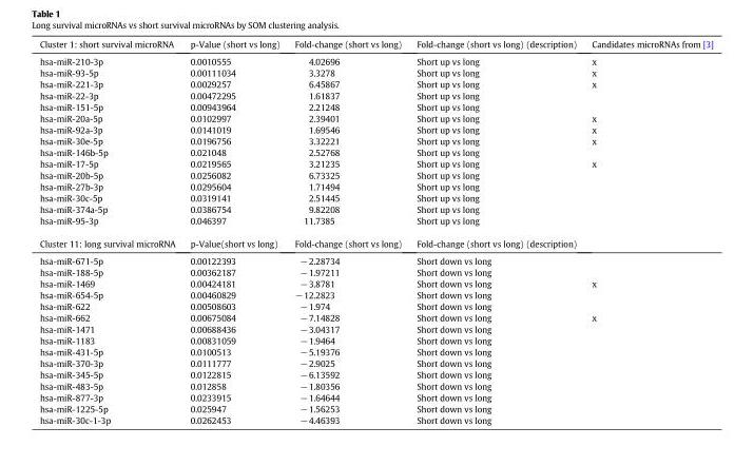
<table><thead><tr><td>Cluster 1: short survival microRNA</td><td>p-Value (short vs long)</td><td>Fold-change (short vs long)</td><td>Fold-change (short vs long) (description)</td><td>Candidates microRNAs from [3]</td></tr></thead><tbody><tr><td>hsa-miR-210-3p</td><td>0.0010555</td><td>4.02696</td><td>Short up vs long</td><td>x</td></tr><tr><td>hsa-miR-93-5p</td><td>0.00111034</td><td>3.3278</td><td>Short up vs long</td><td>x</td></tr><tr><td>hsa-miR-221-3p</td><td>0.0029257</td><td>6.45867</td><td>Short up vs long</td><td>x</td></tr><tr><td>hsa-miR-22-3p</td><td>0.00472295</td><td>1.61837</td><td>Short up vs long</td><td></td></tr><tr><td>hsa-miR-151-5p</td><td>0.00943964</td><td>2.21248</td><td>Short up vs long</td><td></td></tr><tr><td>hsa-miR-20a-5p</td><td>0.0102997</td><td>2.39401</td><td>Short up vs long</td><td>x</td></tr><tr><td>hsa-miR-92a-3p</td><td>0.0141019</td><td>1.69546</td><td>Short up vs long</td><td>x</td></tr><tr><td>hsa-miR-30e-5p</td><td>0.0196756</td><td>3.32221</td><td>Short up vs long</td><td>x</td></tr><tr><td>hsa-miR-146b-5p</td><td>0.021048</td><td>2.52768</td><td>Short up vs long</td><td></td></tr><tr><td>hsa-miR-17-5p</td><td>0.0219565</td><td>3.21235</td><td>Short up vs long</td><td>x</td></tr><tr><td>hsa-miR-20b-5p</td><td>0.0256082</td><td>6.73325</td><td>Short up vs long</td><td></td></tr><tr><td>hsa-miR-27b-3p</td><td>0.0295604</td><td>1.71494</td><td>Short up vs long</td><td></td></tr><tr><td>hsa-miR-30c-5p</td><td>0.0319141</td><td>2.51445</td><td>Short up vs long</td><td></td></tr><tr><td>hsa-miR-374a-5p</td><td>0.0386754</td><td>9.82208</td><td>Short up vs long</td><td></td></tr><tr><td>hsa-miR-95-3p</td><td>0.046397</td><td>11.7385</td><td>Short up vs long</td><td></td></tr><tr><td>Cluster 11: long survival microRNA</td><td>p-Value(short vs long)</td><td>Fold-change (short vs long)</td><td>Fold-change (short vs long) (description)</td><td></td></tr><tr><td>hsa-miR-671-5p</td><td>0.00122393</td><td>−2.28734</td><td>Short down vs long</td><td></td></tr><tr><td>hsa-miR-188-5p</td><td>0.00362187</td><td>−1.97211</td><td>Short down vs long</td><td></td></tr><tr><td>hsa-miR-1469</td><td>0.00424181</td><td>−3.8781</td><td>Short down vs long</td><td>x</td></tr><tr><td>hsa-miR-654-5p</td><td>0.00460829</td><td>−12.2823</td><td>Short down vs long</td><td></td></tr><tr><td>hsa-miR-622</td><td>0.00508603</td><td>−1.974</td><td>Short down vs long</td><td></td></tr><tr><td>hsa-miR-662</td><td>0.00675084</td><td>−7.14828</td><td>Short down vs long</td><td>x</td></tr><tr><td>hsa-miR-1471</td><td>0.00688436</td><td>−3.04317</td><td>Short down vs long</td><td></td></tr><tr><td>hsa-miR-1183</td><td>0.00831059</td><td>−1.9464</td><td>Short down vs long</td><td></td></tr><tr><td>hsa-miR-431-5p</td><td>0.0100513</td><td>−5.19376</td><td>Short down vs long</td><td></td></tr><tr><td>hsa-miR-370-3p</td><td>0.0111777</td><td>−2.9025</td><td>Short down vs long</td><td></td></tr><tr><td>hsa-miR-345-5p</td><td>0.0122815</td><td>−6.13592</td><td>Short down vs long</td><td></td></tr><tr><td>hsa-miR-483-5p</td><td>0.012858</td><td>−1.80356</td><td>Short down vs long</td><td></td></tr><tr><td>hsa-miR-877-3p</td><td>0.0233915</td><td>−1.64644</td><td>Short down vs long</td><td></td></tr><tr><td>hsa-miR-1225-5p</td><td>0.025947</td><td>−1.56253</td><td>Short down vs long</td><td></td></tr><tr><td>hsa-miR-30c-1-3p</td><td>0.0262453</td><td>−4.46393</td><td>Short down vs long</td><td></td></tr></tbody></table>